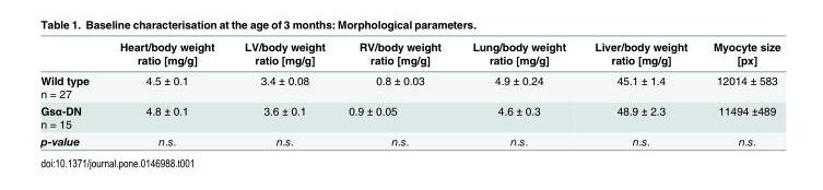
<table><thead><tr><td></td><td>Heart/body weight ratio [mg/g]</td><td>LV/body weight ratio [mg/g]</td><td>RV/body weight ratio [mg/g]</td><td>Lung/body weight ratio [mg/g]</td><td>Liver/body weight ratio [mg/g]</td><td>Myocyte size [px]</td></tr></thead><tbody><tr><td>Wild type n = 27</td><td>4.5 ± 0.1</td><td>3.4 ± 0.08</td><td>0.8 ± 0.03</td><td>4.9 ± 0.24</td><td>45.1 ± 1.4</td><td>12014 ± 583</td></tr><tr><td>Gsα-DN n = 15</td><td>4.8 ± 0.1</td><td>3.6 ± 0.1</td><td>0.9 ± 0.05</td><td>4.6 ± 0.3</td><td>48.9 ± 2.3</td><td>11494 ±489</td></tr><tr><td>p-value</td><td>n.s.</td><td>n.s.</td><td>n.s.</td><td>n.s.</td><td>n.s.</td><td>n.s.</td></tr></tbody></table>